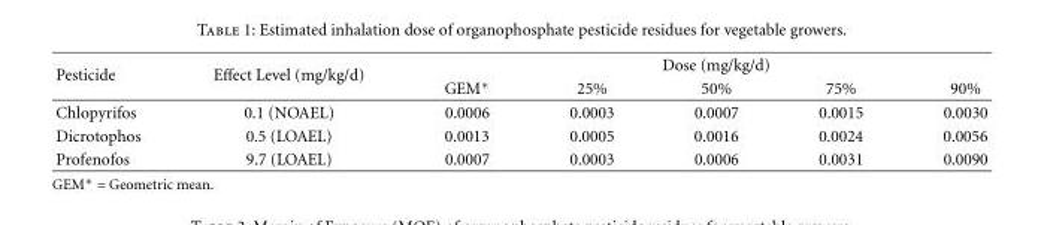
<table><thead><tr><td rowspan="2">Pesticide</td><td rowspan="2">Effect Level (mg/kg/d)</td><td colspan="5">Dose (mg/kg/d)</td></tr><tr><td>GEM∗</td><td>25%</td><td>50%</td><td>75%</td><td>90%</td></tr></thead><tbody><tr><td>Chlopyrifos</td><td>0.1 (NOAEL)</td><td>0.0006</td><td>0.0003</td><td>0.0007</td><td>0.0015</td><td>0.0030</td></tr><tr><td>Dicrotophos</td><td>0.5 (LOAEL)</td><td>0.0013</td><td>0.0005</td><td>0.0016</td><td>0.0024</td><td>0.0056</td></tr><tr><td>Profenofos</td><td>9.7 (LOAEL)</td><td>0.0007</td><td>0.0003</td><td>0.0006</td><td>0.0031</td><td>0.0090</td></tr></tbody></table>